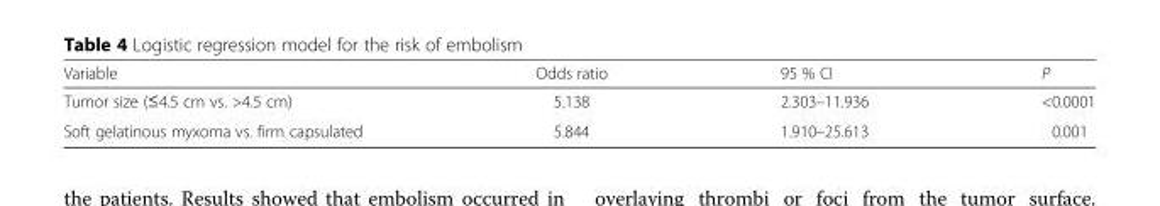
<table><thead><tr><td>Variable</td><td>Odds ratio</td><td>95 % CI</td><td>P</td></tr></thead><tbody><tr><td>Tumor size (≤4.5 cm vs. &gt;4.5 cm)</td><td>5.138</td><td>2.303–11.936</td><td>&lt;0.0001</td></tr><tr><td>Soft gelatinous myxoma vs. firm capsulated</td><td>5.844</td><td>1.910–25.613</td><td>0.001</td></tr></tbody></table>